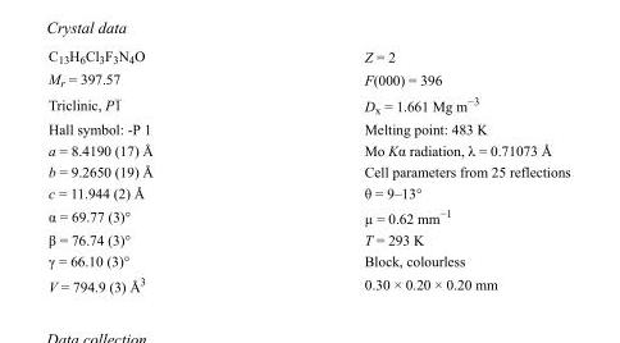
<table><tbody><tr><td>C<sub>13</sub>H<sub>6</sub>Cl<sub>3</sub>F<sub>3</sub>N<sub>4</sub>O</td><td>Z = 2</td></tr><tr><td>M<sub>r</sub> = 397.57</td><td>F(000) = 396</td></tr><tr><td>Triclinic, P1</td><td>D<sub>x</sub> = 1.661 Mg m<sup>−3</sup></td></tr><tr><td>Hall symbol: -P 1</td><td>Melting point: 483 K</td></tr><tr><td>a = 8.4190 (17) Å</td><td>Mo Kα radiation, λ = 0.71073 Å</td></tr><tr><td>b = 9.2650 (19) Å</td><td>Cell parameters from 25 reflections</td></tr><tr><td>c = 11.944 (2) Å</td><td>θ = 9–13°</td></tr><tr><td>α = 69.77 (3)°</td><td>µ = 0.62 mm<sup>−1</sup></td></tr><tr><td>β = 76.74 (3)°</td><td>T = 293 K</td></tr><tr><td>γ = 66.10 (3)°</td><td>Block, colourless</td></tr><tr><td>V = 794.9 (3) Å<sup>3</sup></td><td>0.30 × 0.20 × 0.20 mm</td></tr></tbody></table>